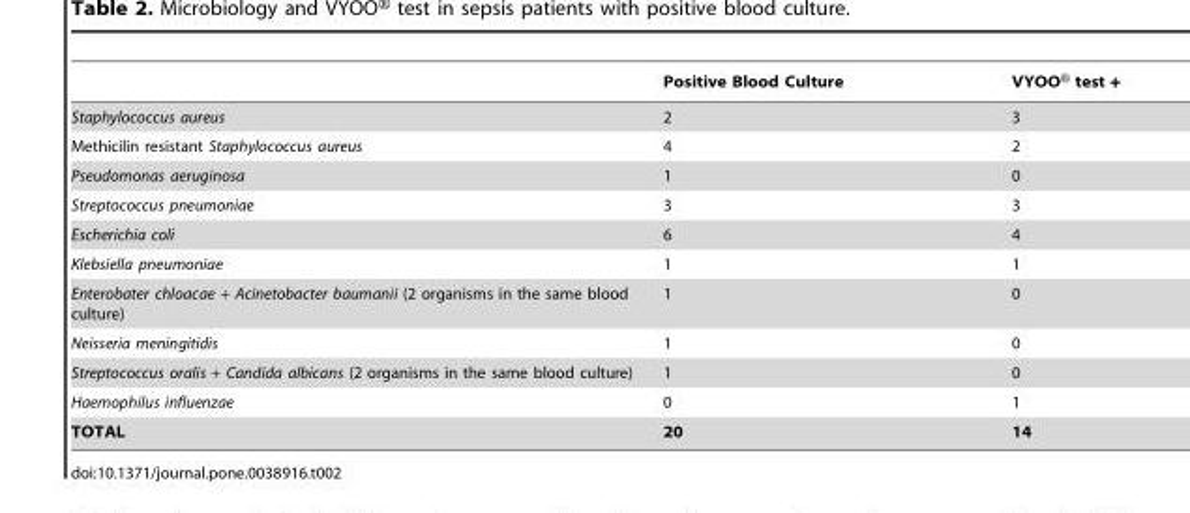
<table><thead><tr><td></td><td>Positive Blood Culture</td><td>VYOO® test +</td></tr></thead><tbody><tr><td>Staphylococcus aureus</td><td>2</td><td>3</td></tr><tr><td>Methicilin resistant Staphylococcus aureus</td><td>4</td><td>2</td></tr><tr><td>Pseudomonas aeruginosa</td><td>1</td><td>0</td></tr><tr><td>Streptococcus pneumoniae</td><td>3</td><td>3</td></tr><tr><td>Escherichia coli</td><td>6</td><td>4</td></tr><tr><td>Klebsiella pneumoniae</td><td>1</td><td>1</td></tr><tr><td>Enterobater chloacae + Acinetobacter baumanii (2 organisms in the same blood culture)</td><td>1</td><td>0</td></tr><tr><td>Neisseria meningitidis</td><td>1</td><td>0</td></tr><tr><td>Streptococcus oralis + Candida albicans (2 organisms in the same blood culture)</td><td>1</td><td>0</td></tr><tr><td>Haemophilus influenzae</td><td>0</td><td>1</td></tr><tr><td>TOTAL</td><td>20</td><td>14</td></tr></tbody></table>